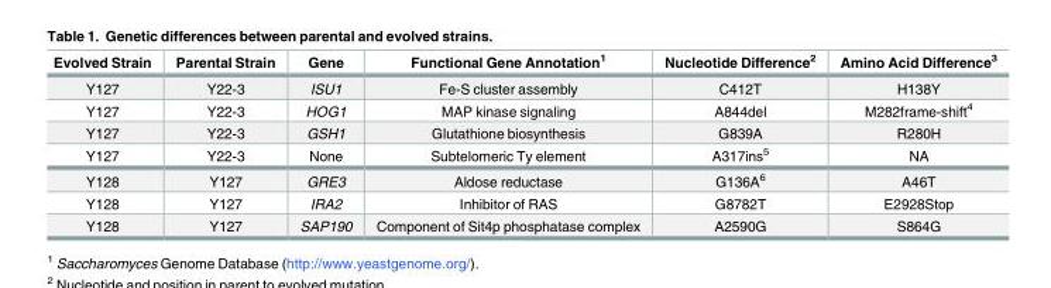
<table><thead><tr><td>Evolved Strain</td><td>Parental Strain</td><td>Gene</td><td>Functional Gene Annotation<sup>1</sup></td><td>Nucleotide Difference<sup>2</sup></td><td>Amino Acid Difference<sup>3</sup></td></tr></thead><tbody><tr><td>Y127</td><td>Y22-3</td><td>ISU1</td><td>Fe-S cluster assembly</td><td>C412T</td><td>H138Y</td></tr><tr><td>Y127</td><td>Y22-3</td><td>HOG1</td><td>MAP kinase signaling</td><td>A844del</td><td>M282frame-shift<sup>4</sup></td></tr><tr><td>Y127</td><td>Y22-3</td><td>GSH1</td><td>Glutathione biosynthesis</td><td>G839A</td><td>R280H</td></tr><tr><td>Y127</td><td>Y22-3</td><td>None</td><td>Subtelomeric Ty element</td><td>A317ins<sup>5</sup></td><td>NA</td></tr><tr><td>Y128</td><td>Y127</td><td>GRE3</td><td>Aldose reductase</td><td>G136A<sup>6</sup></td><td>A46T</td></tr><tr><td>Y128</td><td>Y127</td><td>IRA2</td><td>Inhibitor of RAS</td><td>G8782T</td><td>E2928Stop</td></tr><tr><td>Y128</td><td>Y127</td><td>SAP190</td><td>Component of Sit4p phosphatase complex</td><td>A2590G</td><td>S864G</td></tr></tbody></table>